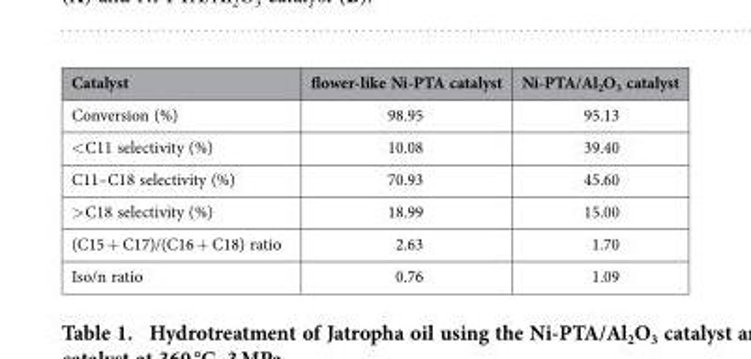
<table><thead><tr><td>Catalyst</td><td>flower-like Ni-PTA catalyst</td><td>Ni-PTA/Al<sub>2</sub>O<sub>3</sub> catalyst</td></tr></thead><tbody><tr><td>Conversion (%)</td><td>98.95</td><td>95.13</td></tr><tr><td>&lt; C11 selectivity (%)</td><td>10.08</td><td>39.40</td></tr><tr><td>C11–C18 selectivity (%)</td><td>70.93</td><td>45.60</td></tr><tr><td>&gt; C18 selectivity (%)</td><td>18.99</td><td>15.00</td></tr><tr><td>(C15 + C17)/(C16 + C18) ratio</td><td>2.63</td><td>1.70</td></tr><tr><td>Iso/n ratio</td><td>0.76</td><td>1.09</td></tr></tbody></table>